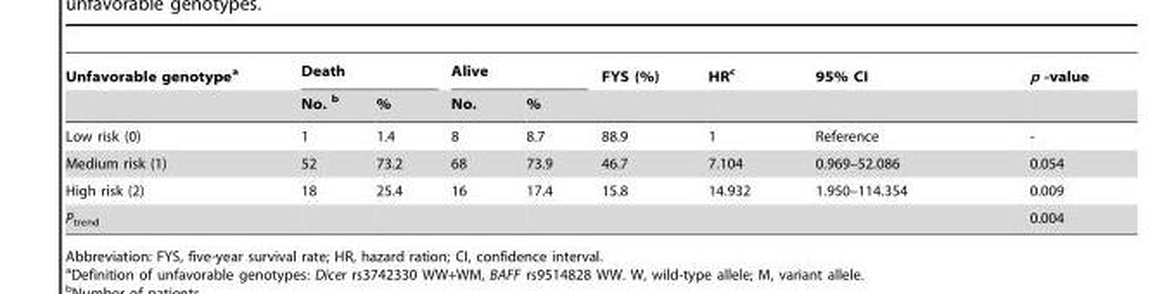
<table><thead><tr><td rowspan="2">Unfavorable genotype<sup>a</sup></td><td colspan="2">Death</td><td colspan="2">Alive</td><td rowspan="2">FYS (%)</td><td rowspan="2">HR<sup>c</sup></td><td rowspan="2">95% CI</td><td rowspan="2">p -value</td></tr><tr><td>No. b</td><td>%</td><td>No.</td><td>%</td></tr></thead><tbody><tr><td>Low risk (0)</td><td>1</td><td>1.4</td><td>8</td><td>8.7</td><td>88.9</td><td>1</td><td>Reference</td><td>-</td></tr><tr><td>Medium risk (1)</td><td>52</td><td>73.2</td><td>68</td><td>73.9</td><td>46.7</td><td>7.104</td><td>0.969–52.086</td><td>0.054</td></tr><tr><td>High risk (2)</td><td>18</td><td>25.4</td><td>16</td><td>17.4</td><td>15.8</td><td>14.932</td><td>1.950–114.354</td><td>0.009</td></tr><tr><td>P<sub>trend</sub></td><td></td><td></td><td></td><td></td><td></td><td></td><td></td><td>0.004</td></tr></tbody></table>